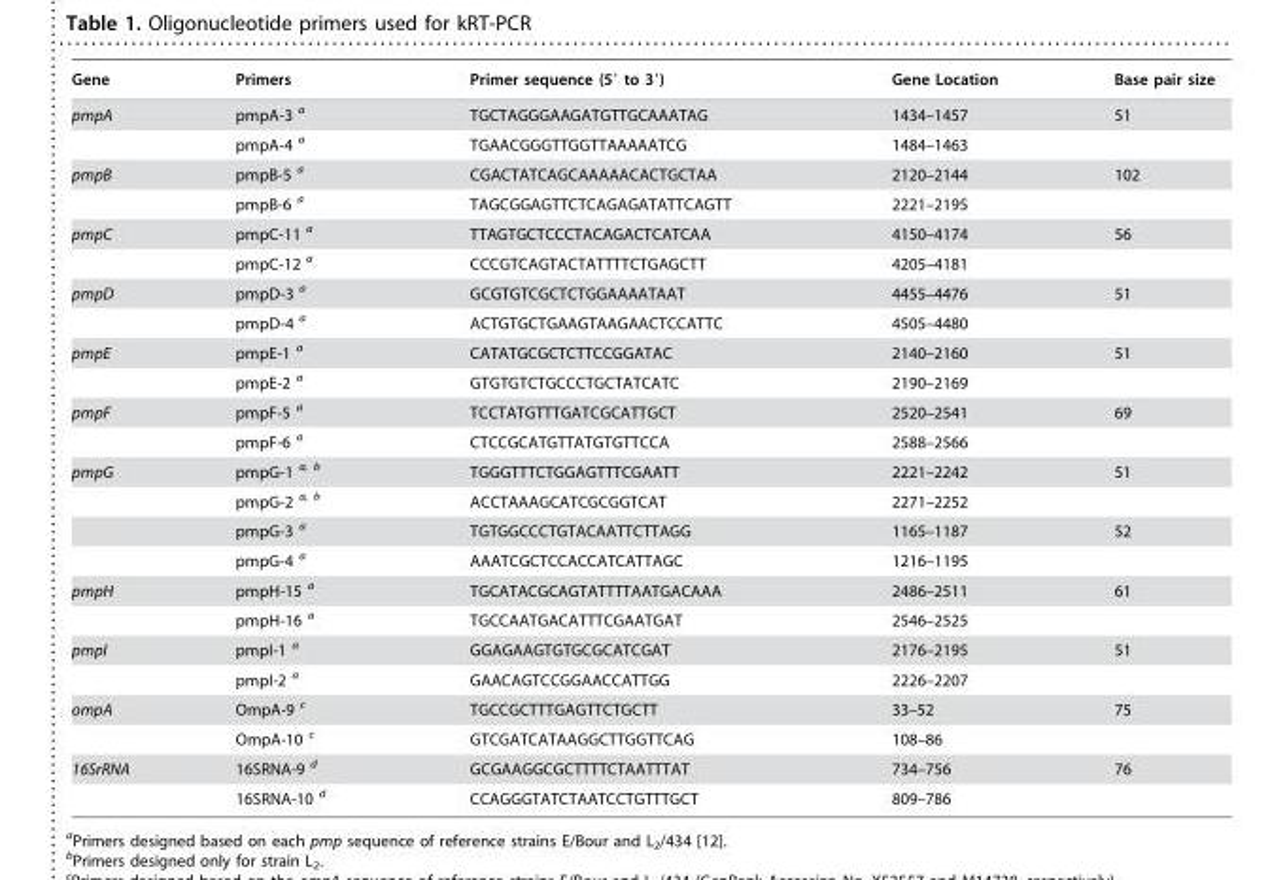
<table><thead><tr><td>Gene</td><td>Primers</td><td>Primer sequence (5′ to 3′)</td><td>Gene Location</td><td>Base pair size</td></tr></thead><tbody><tr><td rowspan="2">pmpA</td><td>pmpA-3 a</td><td>TGCTAGGGAAGATGTTGCAAATAG</td><td>1434–1457</td><td>51</td></tr><tr><td>pmpA-4 a</td><td>TGAACGGGTTGGTTAAAAATCG</td><td>1484–1463</td><td></td></tr><tr><td rowspan="2">pmpB</td><td>pmpB-5 a</td><td>CGACTATCAGCAAAAACACTGCTAA</td><td>2120–2144</td><td>102</td></tr><tr><td>pmpB-6 a</td><td>TAGCGGAGTTCTCAGAGATATTCAGTT</td><td>2221–2195</td><td></td></tr><tr><td rowspan="2">pmpC</td><td>pmpC-11 a</td><td>TTAGTGCTCCCTACAGACTCATCAA</td><td>4150–4174</td><td>56</td></tr><tr><td>pmpC-12 a</td><td>CCCGTCAGTACTATTTTCTGAGCTT</td><td>4205–4181</td><td></td></tr><tr><td rowspan="2">pmpD</td><td>pmpD-3 a</td><td>GCGTGTCGCTCTGGAAAATAAT</td><td>4455–4476</td><td>51</td></tr><tr><td>pmpD-4 a</td><td>ACTGTGCTGAAGTAAGAACTCCATTC</td><td>4505–4480</td><td></td></tr><tr><td rowspan="2">pmpE</td><td>pmpE-1 a</td><td>CATATGCGCTCTTCCGGATAC</td><td>2140–2160</td><td>51</td></tr><tr><td>pmpE-2 a</td><td>GTGTGTCTGCCCTGCTATCATC</td><td>2190–2169</td><td></td></tr><tr><td rowspan="2">pmpF</td><td>pmpF-5 a</td><td>TCCTATGTTTGATCGCATTGCT</td><td>2520–2541</td><td>69</td></tr><tr><td>pmpF-6 a</td><td>CTCCGCATGTTATGTGTTCCA</td><td>2588–2566</td><td></td></tr><tr><td rowspan="4">pmpG</td><td>pmpG-1 a, b</td><td>TGGGTTTCTGGAGTTTCGAATT</td><td>2221–2242</td><td>51</td></tr><tr><td>pmpG-2 a, b</td><td>ACCTAAAGCATCGCGGTCAT</td><td>2271–2252</td><td></td></tr><tr><td>pmpG-3 a</td><td>TGTGGCCCTGTACAATTCTTAGG</td><td>1165–1187</td><td>52</td></tr><tr><td>pmpG-4 a</td><td>AAATCGCTCCACCATCATTAGC</td><td>1216–1195</td><td></td></tr><tr><td rowspan="2">pmpH</td><td>pmpH-15 a</td><td>TGCATACGCAGTATTTTAATGACAAA</td><td>2486–2511</td><td>61</td></tr><tr><td>pmpH-16 a</td><td>TGCCAATGACATTTCGAATGAT</td><td>2546–2525</td><td></td></tr><tr><td rowspan="2">pmpI</td><td>pmpI-1 a</td><td>GGAGAAGTGTGCGCATCGAT</td><td>2176–2195</td><td>51</td></tr><tr><td>pmpI-2 a</td><td>GAACAGTCCGGAACCATTGG</td><td>2226–2207</td><td></td></tr><tr><td rowspan="2">ompA</td><td>OmpA-9 c</td><td>TGCCGCTTTGAGTTCTGCTT</td><td>33–52</td><td>75</td></tr><tr><td>OmpA-10 c</td><td>GTCGATCATAAGGCTTGGTTCAG</td><td>108–86</td><td></td></tr><tr><td rowspan="2">16SrRNA</td><td>16SRNA-9 d</td><td>GCGAAGGCGCTTTTCTAATTTAT</td><td>734–756</td><td>76</td></tr><tr><td>16SRNA-10 d</td><td>CCAGGGTATCTAATCCTGTTTGCT</td><td>809–786</td><td></td></tr></tbody></table>